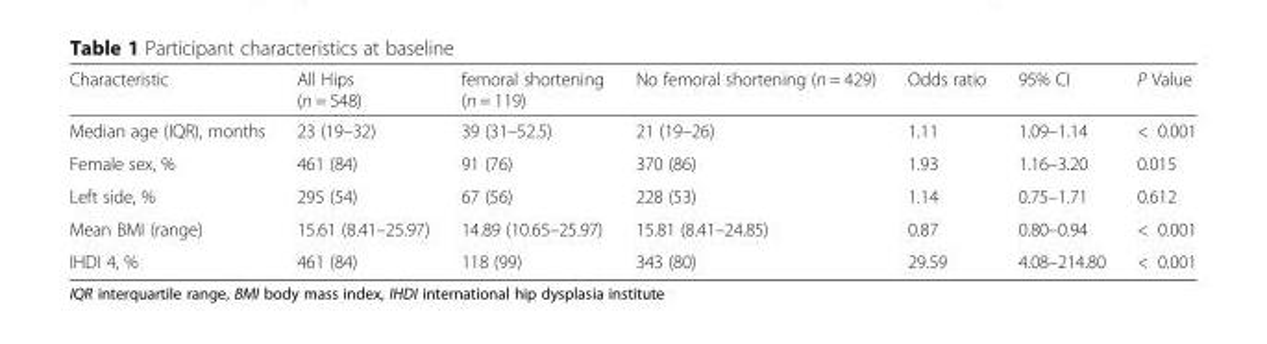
<table><thead><tr><td>Characteristic</td><td>All Hips (n = 548)</td><td>femoral shortening (n = 119)</td><td>No femoral shortening (n = 429)</td><td>Odds ratio</td><td>95% CI</td><td>P Value</td></tr></thead><tbody><tr><td>Median age (IQR), months</td><td>23 (19–32)</td><td>39 (31–52.5)</td><td>21 (19–26)</td><td>1.11</td><td>1.09–1.14</td><td>&lt; 0.001</td></tr><tr><td>Female sex, %</td><td>461 (84)</td><td>91 (76)</td><td>370 (86)</td><td>1.93</td><td>1.16–3.20</td><td>0.015</td></tr><tr><td>Left side, %</td><td>295 (54)</td><td>67 (56)</td><td>228 (53)</td><td>1.14</td><td>0.75–1.71</td><td>0.612</td></tr><tr><td>Mean BMI (range)</td><td>15.61 (8.41–25.97)</td><td>14.89 (10.65–25.97)</td><td>15.81 (8.41–24.85)</td><td>0.87</td><td>0.80–0.94</td><td>&lt; 0.001</td></tr><tr><td>IHDI 4, %</td><td>461 (84)</td><td>118 (99)</td><td>343 (80)</td><td>29.59</td><td>4.08–214.80</td><td>&lt; 0.001</td></tr></tbody></table>